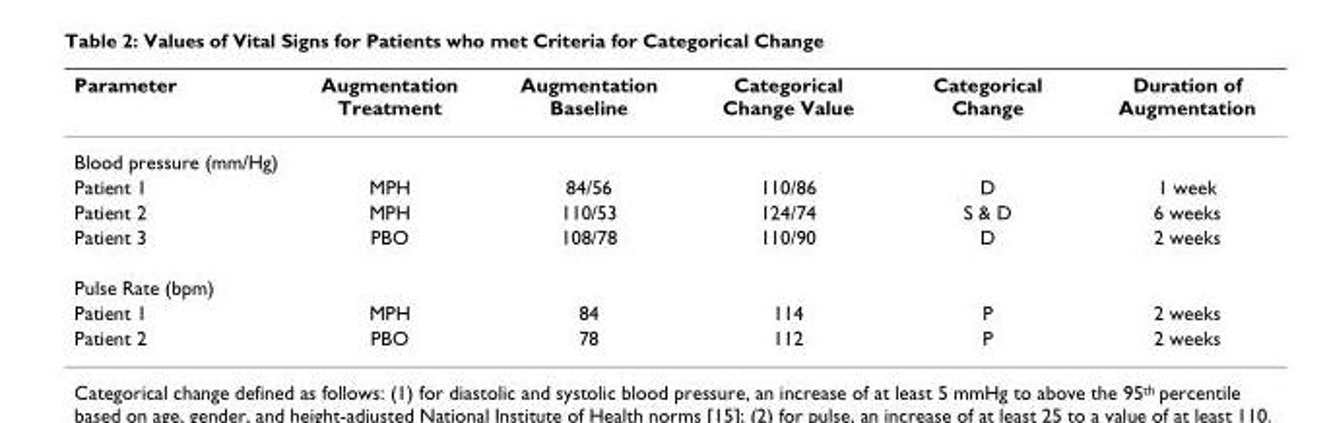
<table><thead><tr><td>Parameter</td><td>Augmentation Treatment</td><td>Augmentation Baseline</td><td>Categorical Change Value</td><td>Categorical Change</td><td>Duration of Augmentation</td></tr></thead><tbody><tr><td colspan="6">Blood pressure (mm/Hg)</td></tr><tr><td>Patient 1</td><td>MPH</td><td>84/56</td><td>110/86</td><td>D</td><td>1 week</td></tr><tr><td>Patient 2</td><td>MPH</td><td>110/53</td><td>124/74</td><td>S &amp; D</td><td>6 weeks</td></tr><tr><td>Patient 3</td><td>PBO</td><td>108/78</td><td>110/90</td><td>D</td><td>2 weeks</td></tr><tr><td colspan="6">Pulse Rate (bpm)</td></tr><tr><td>Patient 1</td><td>MPH</td><td>84</td><td>114</td><td>P</td><td>2 weeks</td></tr><tr><td>Patient 2</td><td>PBO</td><td>78</td><td>112</td><td>P</td><td>2 weeks</td></tr></tbody></table>